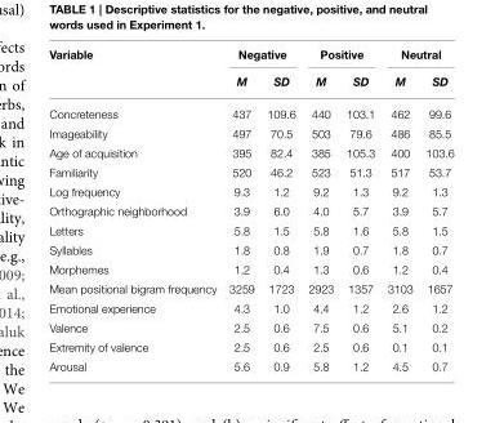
<table><thead><tr><td rowspan="2">Variable</td><td colspan="2">Negative</td><td colspan="2">Positive</td><td colspan="2">Neutral</td></tr><tr><td>M</td><td>SD</td><td>M</td><td>SD</td><td>M</td><td>SD</td></tr></thead><tbody><tr><td>Concreteness</td><td>437</td><td>109.6</td><td>440</td><td>103.1</td><td>462</td><td>99.6</td></tr><tr><td>Imageability</td><td>497</td><td>70.5</td><td>503</td><td>79.6</td><td>486</td><td>85.5</td></tr><tr><td>Age of acquisition</td><td>395</td><td>82.4</td><td>385</td><td>105.3</td><td>400</td><td>103.6</td></tr><tr><td>Familiarity</td><td>520</td><td>46.2</td><td>523</td><td>51.3</td><td>517</td><td>53.7</td></tr><tr><td>Log frequency</td><td>9.3</td><td>1.2</td><td>9.2</td><td>1.3</td><td>9.2</td><td>1.3</td></tr><tr><td>Orthographic neighborhood</td><td>3.9</td><td>6.0</td><td>4.0</td><td>5.7</td><td>3.9</td><td>5.7</td></tr><tr><td>Letters</td><td>5.8</td><td>1.5</td><td>5.8</td><td>1.6</td><td>5.8</td><td>1.5</td></tr><tr><td>Syllables</td><td>1.8</td><td>0.8</td><td>1.9</td><td>0.7</td><td>1.8</td><td>0.7</td></tr><tr><td>Morphemes</td><td>1.2</td><td>0.4</td><td>1.3</td><td>0.6</td><td>1.2</td><td>0.4</td></tr><tr><td>Mean positional bigram frequency</td><td>3259</td><td>1723</td><td>2923</td><td>1357</td><td>3103</td><td>1657</td></tr><tr><td>Emotional experience</td><td>4.3</td><td>1.0</td><td>4.4</td><td>1.2</td><td>2.6</td><td>1.2</td></tr><tr><td>Valence</td><td>2.5</td><td>0.6</td><td>7.5</td><td>0.6</td><td>5.1</td><td>0.2</td></tr><tr><td>Extremity of valence</td><td>2.5</td><td>0.6</td><td>2.5</td><td>0.6</td><td>0.1</td><td>0.1</td></tr><tr><td>Arousal</td><td>5.6</td><td>0.9</td><td>5.8</td><td>1.2</td><td>4.5</td><td>0.7</td></tr></tbody></table>